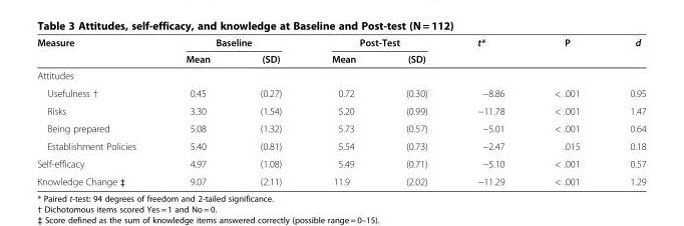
<table><thead><tr><td rowspan="2">Measure</td><td colspan="2">Baseline</td><td colspan="2">Post-Test</td><td rowspan="2">t*</td><td rowspan="2">P</td><td rowspan="2">d</td></tr><tr><td>Mean</td><td>(SD)</td><td>Mean</td><td>(SD)</td></tr></thead><tbody><tr><td colspan="8">Attitudes</td></tr><tr><td>Usefulness †</td><td>0.45</td><td>(0.27)</td><td>0.72</td><td>(0.30)</td><td>−8.86</td><td>&lt; .001</td><td>0.95</td></tr><tr><td>Risks</td><td>3.30</td><td>(1.54)</td><td>5.20</td><td>(0.99)</td><td>−11.78</td><td>&lt; .001</td><td>1.47</td></tr><tr><td>Being prepared</td><td>5.08</td><td>(1.32)</td><td>5.73</td><td>(0.57)</td><td>−5.01</td><td>&lt; .001</td><td>0.64</td></tr><tr><td>Establishment Policies</td><td>5.40</td><td>(0.81)</td><td>5.54</td><td>(0.73)</td><td>−2.47</td><td>.015</td><td>0.18</td></tr><tr><td>Self-efficacy</td><td>4.97</td><td>(1.08)</td><td>5.49</td><td>(0.71)</td><td>−5.10</td><td>&lt; .001</td><td>0.57</td></tr><tr><td>Knowledge Change ‡</td><td>9.07</td><td>(2.11)</td><td>11.9</td><td>(2.02)</td><td>−11.29</td><td>&lt; .001</td><td>1.29</td></tr></tbody></table>